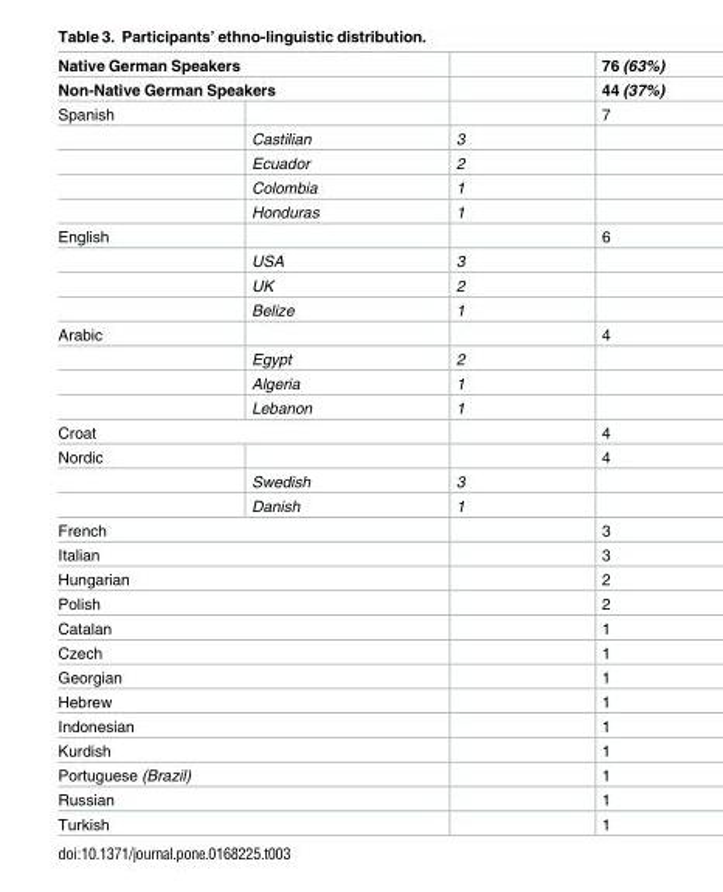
<table><tbody><tr><td colspan="2">Native German Speakers</td><td></td><td>76 (63%)</td></tr><tr><td colspan="2">Non-Native German Speakers</td><td></td><td>44 (37%)</td></tr><tr><td rowspan="5">Spanish</td><td></td><td></td><td>7</td></tr><tr><td>Castilian</td><td>3</td><td></td></tr><tr><td>Ecuador</td><td>2</td><td></td></tr><tr><td>Colombia</td><td>1</td><td></td></tr><tr><td>Honduras</td><td>1</td><td></td></tr><tr><td rowspan="4">English</td><td></td><td></td><td>6</td></tr><tr><td>USA</td><td>3</td><td></td></tr><tr><td>UK</td><td>2</td><td></td></tr><tr><td>Belize</td><td>1</td><td></td></tr><tr><td rowspan="4">Arabic</td><td></td><td></td><td>4</td></tr><tr><td>Egypt</td><td>2</td><td></td></tr><tr><td>Algeria</td><td>1</td><td></td></tr><tr><td>Lebanon</td><td>1</td><td></td></tr><tr><td colspan="2">Croat</td><td></td><td>4</td></tr><tr><td rowspan="3">Nordic</td><td></td><td></td><td>4</td></tr><tr><td>Swedish</td><td>3</td><td></td></tr><tr><td>Danish</td><td>1</td><td></td></tr><tr><td colspan="2">French</td><td></td><td>3</td></tr><tr><td colspan="2">Italian</td><td></td><td>3</td></tr><tr><td colspan="2">Hungarian</td><td></td><td>2</td></tr><tr><td colspan="2">Polish</td><td></td><td>2</td></tr><tr><td colspan="2">Catalan</td><td></td><td>1</td></tr><tr><td colspan="2">Czech</td><td></td><td>1</td></tr><tr><td colspan="2">Georgian</td><td></td><td>1</td></tr><tr><td colspan="2">Hebrew</td><td></td><td>1</td></tr><tr><td colspan="2">Indonesian</td><td></td><td>1</td></tr><tr><td colspan="2">Kurdish</td><td></td><td>1</td></tr><tr><td colspan="2">Portuguese (Brazil)</td><td></td><td>1</td></tr><tr><td colspan="2">Russian</td><td></td><td>1</td></tr><tr><td colspan="2">Turkish</td><td></td><td>1</td></tr></tbody></table>